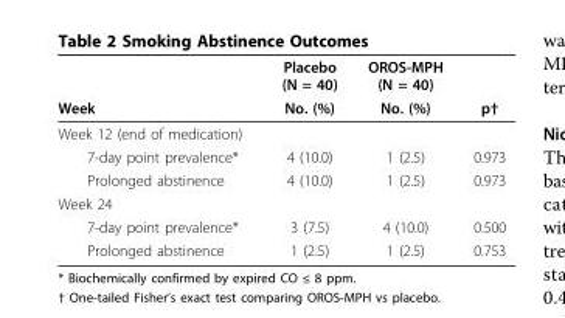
<table><thead><tr><td rowspan="2">Week</td><td rowspan="2">Placebo (N = 40) No. (%)</td><td rowspan="2">OROS-MPH (N = 40) No. (%)</td><td rowspan="2">p†</td></tr><tr></tr></thead><tbody><tr><td colspan="4">Week 12 (end of medication)</td></tr><tr><td>7-day point prevalence*</td><td>4 (10.0)</td><td>1 (2.5)</td><td>0.973</td></tr><tr><td>Prolonged abstinence</td><td>4 (10.0)</td><td>1 (2.5)</td><td>0.973</td></tr><tr><td colspan="4">Week 24</td></tr><tr><td>7-day point prevalence*</td><td>3 (7.5)</td><td>4 (10.0)</td><td>0.500</td></tr><tr><td>Prolonged abstinence</td><td>1 (2.5)</td><td>1 (2.5)</td><td>0.753</td></tr></tbody></table>